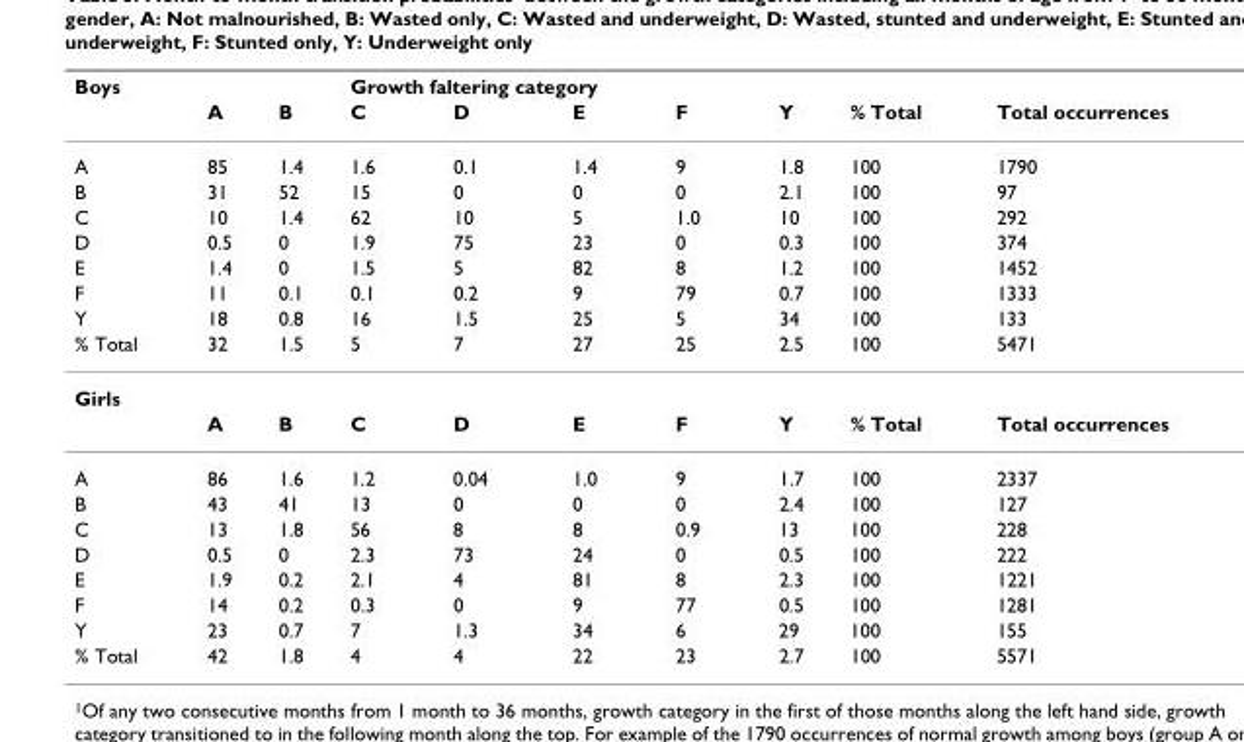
<table><thead><tr><td rowspan="2">Boys</td><td rowspan="2">A</td><td rowspan="2">B</td><td colspan="4">Growth faltering category</td><td rowspan="2">Y</td><td rowspan="2">% Total</td><td rowspan="2">Total occurrences</td></tr><tr><td>C</td><td>D</td><td>E</td><td>F</td></tr></thead><tbody><tr><td>A</td><td>85</td><td>1.4</td><td>1.6</td><td>0.1</td><td>1.4</td><td>9</td><td>1.8</td><td>100</td><td>1790</td></tr><tr><td>B</td><td>31</td><td>52</td><td>15</td><td>0</td><td>0</td><td>0</td><td>2.1</td><td>100</td><td>97</td></tr><tr><td>C</td><td>10</td><td>1.4</td><td>62</td><td>10</td><td>5</td><td>1.0</td><td>10</td><td>100</td><td>292</td></tr><tr><td>D</td><td>0.5</td><td>0</td><td>1.9</td><td>75</td><td>23</td><td>0</td><td>0.3</td><td>100</td><td>374</td></tr><tr><td>E</td><td>1.4</td><td>0</td><td>1.5</td><td>5</td><td>82</td><td>8</td><td>1.2</td><td>100</td><td>1452</td></tr><tr><td>F</td><td>11</td><td>0.1</td><td>0.1</td><td>0.2</td><td>9</td><td>79</td><td>0.7</td><td>100</td><td>1333</td></tr><tr><td>Y</td><td>18</td><td>0.8</td><td>16</td><td>1.5</td><td>25</td><td>5</td><td>34</td><td>100</td><td>133</td></tr><tr><td>% Total</td><td>32</td><td>1.5</td><td>5</td><td>7</td><td>27</td><td>25</td><td>2.5</td><td>100</td><td>5471</td></tr><tr><td colspan="10">Girls</td></tr><tr><td></td><td>A</td><td>B</td><td>C</td><td>D</td><td>E</td><td>F</td><td>Y</td><td>% Total</td><td>Total occurrences</td></tr><tr><td>A</td><td>86</td><td>1.6</td><td>1.2</td><td>0.04</td><td>1.0</td><td>9</td><td>1.7</td><td>100</td><td>2337</td></tr><tr><td>B</td><td>43</td><td>41</td><td>13</td><td>0</td><td>0</td><td>0</td><td>2.4</td><td>100</td><td>127</td></tr><tr><td>C</td><td>13</td><td>1.8</td><td>56</td><td>8</td><td>8</td><td>0.9</td><td>13</td><td>100</td><td>228</td></tr><tr><td>D</td><td>0.5</td><td>0</td><td>2.3</td><td>73</td><td>24</td><td>0</td><td>0.5</td><td>100</td><td>222</td></tr><tr><td>E</td><td>1.9</td><td>0.2</td><td>2.1</td><td>4</td><td>81</td><td>8</td><td>2.3</td><td>100</td><td>1221</td></tr><tr><td>F</td><td>14</td><td>0.2</td><td>0.3</td><td>0</td><td>9</td><td>77</td><td>0.5</td><td>100</td><td>1281</td></tr><tr><td>Y</td><td>23</td><td>0.7</td><td>7</td><td>1.3</td><td>34</td><td>6</td><td>29</td><td>100</td><td>155</td></tr><tr><td>% Total</td><td>42</td><td>1.8</td><td>4</td><td>4</td><td>22</td><td>23</td><td>2.7</td><td>100</td><td>5571</td></tr></tbody></table>